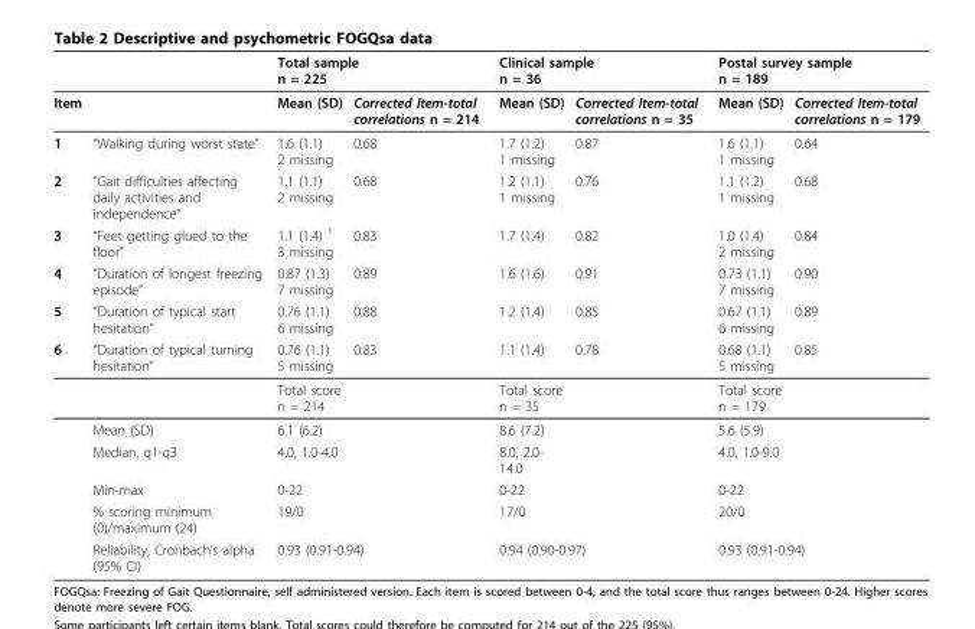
<table><thead><tr><td rowspan="2">Item</td><td rowspan="2"></td><td colspan="2">Total sample n = 225</td><td colspan="2">Clinical sample n = 36</td><td colspan="2">Postal survey sample n = 189</td></tr><tr><td>Mean (SD)</td><td>Corrected Item-total correlations n = 214</td><td>Mean (SD)</td><td>Corrected Item-total correlations n = 35</td><td>Mean (SD)</td><td>Corrected Item-total correlations n = 179</td></tr></thead><tbody><tr><td>1</td><td>“Walking during worst state”</td><td>1.6 (1.1) 2 missing</td><td>0.68</td><td>1.7 (1.2) 1 missing</td><td>0.87</td><td>1.6 (1.1) 1 missing</td><td>0.64</td></tr><tr><td>2</td><td>“Gait difficulties affecting daily activities and independence”</td><td>1.1 (1.1) 2 missing</td><td>0.68</td><td>1.2 (1.1) 1 missing</td><td>0.76</td><td>1.1 (1.2) 1 missing</td><td>0.68</td></tr><tr><td>3</td><td>“Feet getting glued to the floor”</td><td>1.1 (1.4) <sup>1</sup> 3 missing</td><td>0.83</td><td>1.7 (1.4)</td><td>0.82</td><td>1.0 (1.4) 2 missing</td><td>0.84</td></tr><tr><td>4</td><td>“Duration of longest freezing episode”</td><td>0.87 (1.3) 7 missing</td><td>0.89</td><td>1.6 (1.6)</td><td>0.91</td><td>0.73 (1.1) 7 missing</td><td>0.90</td></tr><tr><td>5</td><td>“Duration of typical start hesitation”</td><td>0.76 (1.1) 6 missing</td><td>0.88</td><td>1.2 (1.4)</td><td>0.85</td><td>0.67 (1.1) 6 missing</td><td>0.89</td></tr><tr><td rowspan="7">6</td><td>“Duration of typical turning hesitation”</td><td>0.76 (1.1) 5 missing</td><td>0.83</td><td>1.1 (1.4)</td><td>0.78</td><td>0.68 (1.1) 5 missing</td><td>0.85</td></tr><tr><td></td><td colspan="2">Total score n = 214</td><td colspan="2">Total score n = 35</td><td colspan="2">Total score n = 179</td></tr><tr><td>Mean (SD)</td><td>6.1 (6.2)</td><td></td><td>8.6 (7.2)</td><td></td><td>5.6 (5.9)</td><td></td></tr><tr><td>Median, q1-q3</td><td>4.0, 1.0-4.0</td><td></td><td>8.0, 2.0- 14.0</td><td></td><td>4.0, 1.0-9.0</td><td></td></tr><tr><td>Min-max</td><td>0-22</td><td></td><td>0-22</td><td></td><td>0-22</td><td></td></tr><tr><td>% scoring minimum (0)/maximum (24)</td><td>19/0</td><td></td><td>17/0</td><td></td><td>20/0</td><td></td></tr><tr><td>Reliability, Cronbach’s alpha (95% CI)</td><td colspan="2">0.93 (0.91-0.94)</td><td colspan="2">0.94 (0.90-0.97)</td><td colspan="2">0.93 (0.91-0.94)</td></tr></tbody></table>